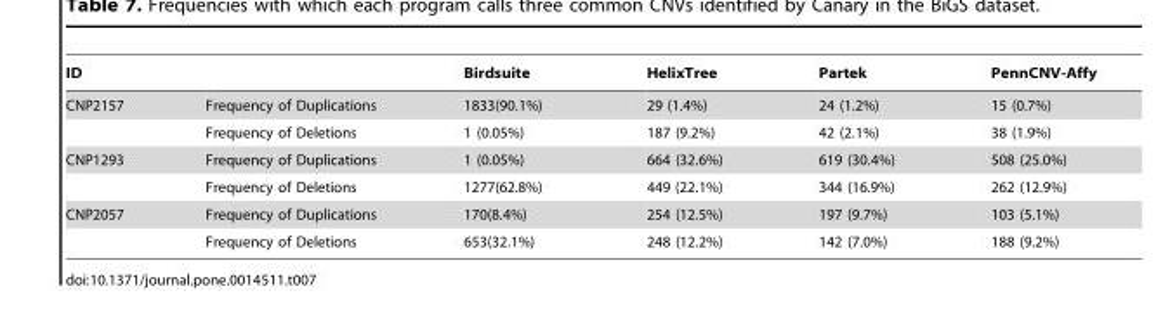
<table><thead><tr><td>ID</td><td></td><td>Birdsuite</td><td>HelixTree</td><td>Partek</td><td>PennCNV-Affy</td></tr></thead><tbody><tr><td rowspan="2">CNP2157</td><td>Frequency of Duplications</td><td>1833(90.1%)</td><td>29 (1.4%)</td><td>24 (1.2%)</td><td>15 (0.7%)</td></tr><tr><td>Frequency of Deletions</td><td>1 (0.05%)</td><td>187 (9.2%)</td><td>42 (2.1%)</td><td>38 (1.9%)</td></tr><tr><td rowspan="2">CNP1293</td><td>Frequency of Duplications</td><td>1 (0.05%)</td><td>664 (32.6%)</td><td>619 (30.4%)</td><td>508 (25.0%)</td></tr><tr><td>Frequency of Deletions</td><td>1277(62.8%)</td><td>449 (22.1%)</td><td>344 (16.9%)</td><td>262 (12.9%)</td></tr><tr><td rowspan="2">CNP2057</td><td>Frequency of Duplications</td><td>170(8.4%)</td><td>254 (12.5%)</td><td>197 (9.7%)</td><td>103 (5.1%)</td></tr><tr><td>Frequency of Deletions</td><td>653(32.1%)</td><td>248 (12.2%)</td><td>142 (7.0%)</td><td>188 (9.2%)</td></tr></tbody></table>